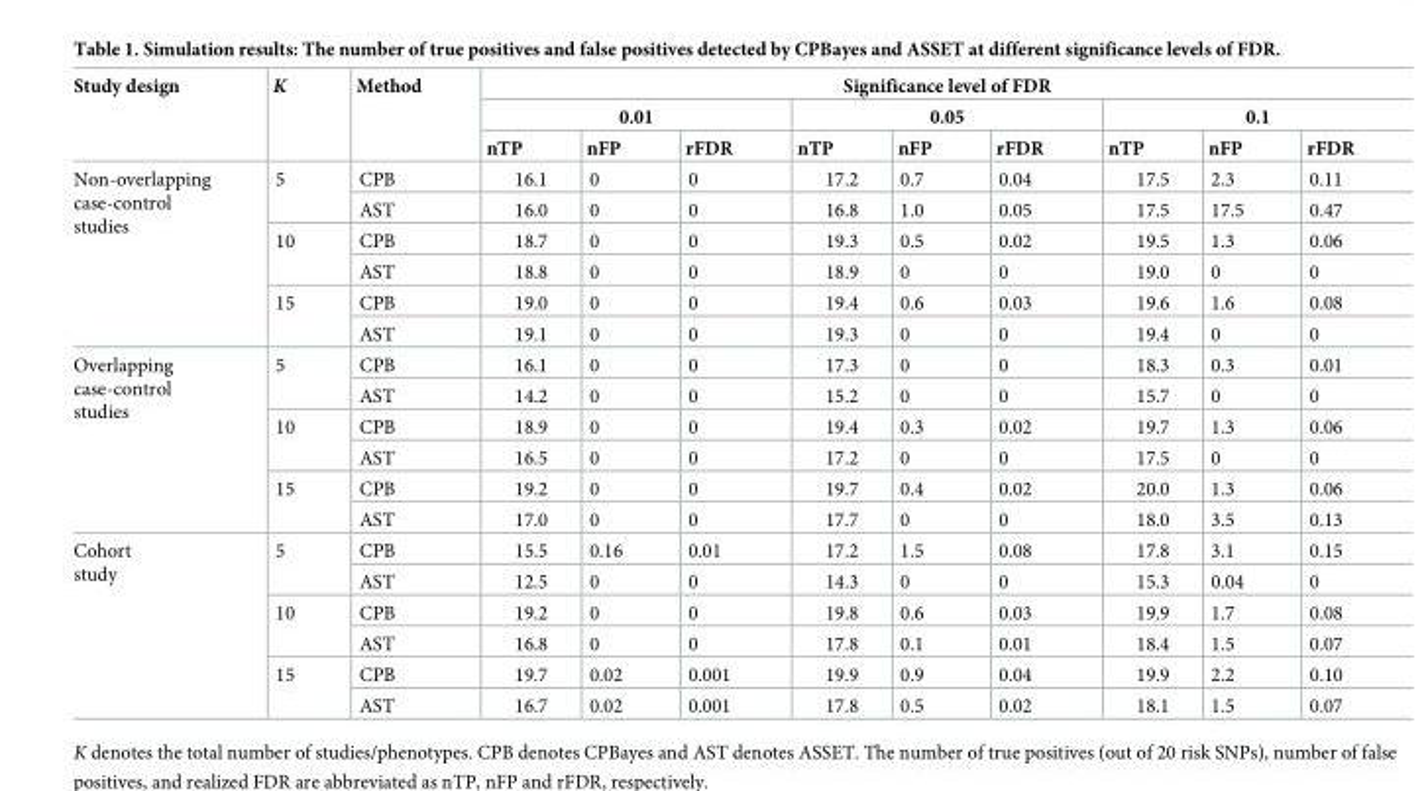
<table><thead><tr><td rowspan="3">Study design</td><td rowspan="3">K</td><td rowspan="3">Method</td><td colspan="9">Significance level of FDR</td></tr><tr><td colspan="3">0.01</td><td colspan="3">0.05</td><td colspan="3">0.1</td></tr><tr><td>nTP</td><td>nFP</td><td>rFDR</td><td>nTP</td><td>nFP</td><td>rFDR</td><td>nTP</td><td>nFP</td><td>rFDR</td></tr></thead><tbody><tr><td rowspan="6">Non-overlapping case-control studies</td><td rowspan="2">5</td><td>CPB</td><td>16.1</td><td>0</td><td>0</td><td>17.2</td><td>0.7</td><td>0.04</td><td>17.5</td><td>2.3</td><td>0.11</td></tr><tr><td>AST</td><td>16.0</td><td>0</td><td>0</td><td>16.8</td><td>1.0</td><td>0.05</td><td>17.5</td><td>17.5</td><td>0.47</td></tr><tr><td rowspan="2">10</td><td>CPB</td><td>18.7</td><td>0</td><td>0</td><td>19.3</td><td>0.5</td><td>0.02</td><td>19.5</td><td>1.3</td><td>0.06</td></tr><tr><td>AST</td><td>18.8</td><td>0</td><td>0</td><td>18.9</td><td>0</td><td>0</td><td>19.0</td><td>0</td><td>0</td></tr><tr><td rowspan="2">15</td><td>CPB</td><td>19.0</td><td>0</td><td>0</td><td>19.4</td><td>0.6</td><td>0.03</td><td>19.6</td><td>1.6</td><td>0.08</td></tr><tr><td>AST</td><td>19.1</td><td>0</td><td>0</td><td>19.3</td><td>0</td><td>0</td><td>19.4</td><td>0</td><td>0</td></tr><tr><td rowspan="6">Overlapping case-control studies</td><td rowspan="2">5</td><td>CPB</td><td>16.1</td><td>0</td><td>0</td><td>17.3</td><td>0</td><td>0</td><td>18.3</td><td>0.3</td><td>0.01</td></tr><tr><td>AST</td><td>14.2</td><td>0</td><td>0</td><td>15.2</td><td>0</td><td>0</td><td>15.7</td><td>0</td><td>0</td></tr><tr><td rowspan="2">10</td><td>CPB</td><td>18.9</td><td>0</td><td>0</td><td>19.4</td><td>0.3</td><td>0.02</td><td>19.7</td><td>1.3</td><td>0.06</td></tr><tr><td>AST</td><td>16.5</td><td>0</td><td>0</td><td>17.2</td><td>0</td><td>0</td><td>17.5</td><td>0</td><td>0</td></tr><tr><td rowspan="2">15</td><td>CPB</td><td>19.2</td><td>0</td><td>0</td><td>19.7</td><td>0.4</td><td>0.02</td><td>20.0</td><td>1.3</td><td>0.06</td></tr><tr><td>AST</td><td>17.0</td><td>0</td><td>0</td><td>17.7</td><td>0</td><td>0</td><td>18.0</td><td>3.5</td><td>0.13</td></tr><tr><td rowspan="6">Cohort study</td><td rowspan="2">5</td><td>CPB</td><td>15.5</td><td>0.16</td><td>0.01</td><td>17.2</td><td>1.5</td><td>0.08</td><td>17.8</td><td>3.1</td><td>0.15</td></tr><tr><td>AST</td><td>12.5</td><td>0</td><td>0</td><td>14.3</td><td>0</td><td>0</td><td>15.3</td><td>0.04</td><td>0</td></tr><tr><td rowspan="2">10</td><td>CPB</td><td>19.2</td><td>0</td><td>0</td><td>19.8</td><td>0.6</td><td>0.03</td><td>19.9</td><td>1.7</td><td>0.08</td></tr><tr><td>AST</td><td>16.8</td><td>0</td><td>0</td><td>17.8</td><td>0.1</td><td>0.01</td><td>18.4</td><td>1.5</td><td>0.07</td></tr><tr><td rowspan="2">15</td><td>CPB</td><td>19.7</td><td>0.02</td><td>0.001</td><td>19.9</td><td>0.9</td><td>0.04</td><td>19.9</td><td>2.2</td><td>0.10</td></tr><tr><td>AST</td><td>16.7</td><td>0.02</td><td>0.001</td><td>17.8</td><td>0.5</td><td>0.02</td><td>18.1</td><td>1.5</td><td>0.07</td></tr></tbody></table>